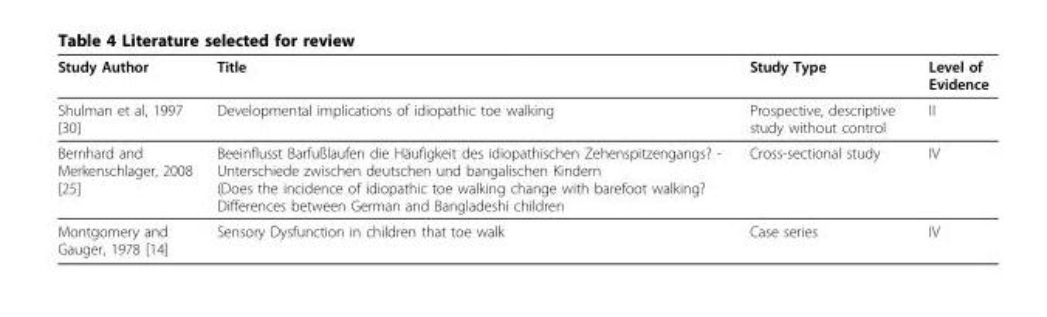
<table><thead><tr><td>Study Author</td><td>Title</td><td>Study Type</td><td>Level of Evidence</td></tr></thead><tbody><tr><td>Shulman et al, 1997 [30]</td><td>Developmental implications of idiopathic toe walking</td><td>Prospective, descriptive study without control</td><td>II</td></tr><tr><td>Bernhard and Merkenschlager, 2008 [25]</td><td>Beeinflusst Barfußlaufen die Häufigkeit des idiopathischen Zehenspitzengangs? - Unterschiede zwischen deutschen und bangalischen Kindern (Does the incidence of idiopathic toe walking change with barefoot walking? Differences between German and Bangladeshi children</td><td>Cross-sectional study</td><td>IV</td></tr><tr><td>Montgomery and Gauger, 1978 [14]</td><td>Sensory Dysfunction in children that toe walk</td><td>Case series</td><td>IV</td></tr></tbody></table>